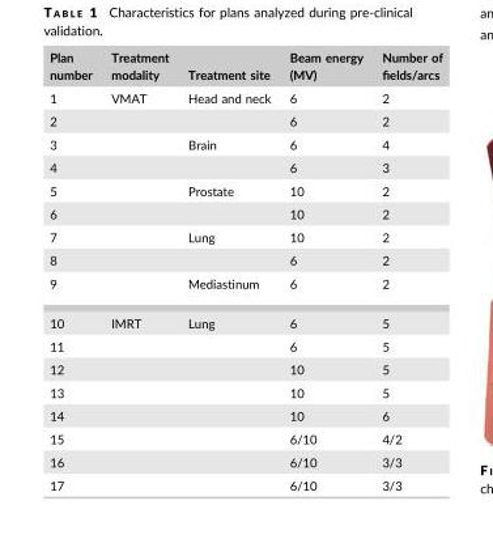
<table><thead><tr><td>Plan number</td><td>Treatment modality</td><td>Treatment site</td><td>Beam energy (MV)</td><td>Number of fields/arcs</td></tr></thead><tbody><tr><td>1</td><td>VMAT</td><td>Head and neck</td><td>6</td><td>2</td></tr><tr><td>2</td><td></td><td></td><td>6</td><td>2</td></tr><tr><td>3</td><td></td><td>Brain</td><td>6</td><td>4</td></tr><tr><td>4</td><td></td><td></td><td>6</td><td>3</td></tr><tr><td>5</td><td></td><td>Prostate</td><td>10</td><td>2</td></tr><tr><td>6</td><td></td><td></td><td>10</td><td>2</td></tr><tr><td>7</td><td></td><td>Lung</td><td>10</td><td>2</td></tr><tr><td>8</td><td></td><td></td><td>6</td><td>2</td></tr><tr><td>9</td><td></td><td>Mediastinum</td><td>6</td><td>2</td></tr><tr><td>10</td><td>IMRT</td><td>Lung</td><td>6</td><td>5</td></tr><tr><td>11</td><td></td><td></td><td>6</td><td>5</td></tr><tr><td>12</td><td></td><td></td><td>10</td><td>5</td></tr><tr><td>13</td><td></td><td></td><td>10</td><td>5</td></tr><tr><td>14</td><td></td><td></td><td>10</td><td>6</td></tr><tr><td>15</td><td></td><td></td><td>6/10</td><td>4/2</td></tr><tr><td>16</td><td></td><td></td><td>6/10</td><td>3/3</td></tr><tr><td>17</td><td></td><td></td><td>6/10</td><td>3/3</td></tr></tbody></table>